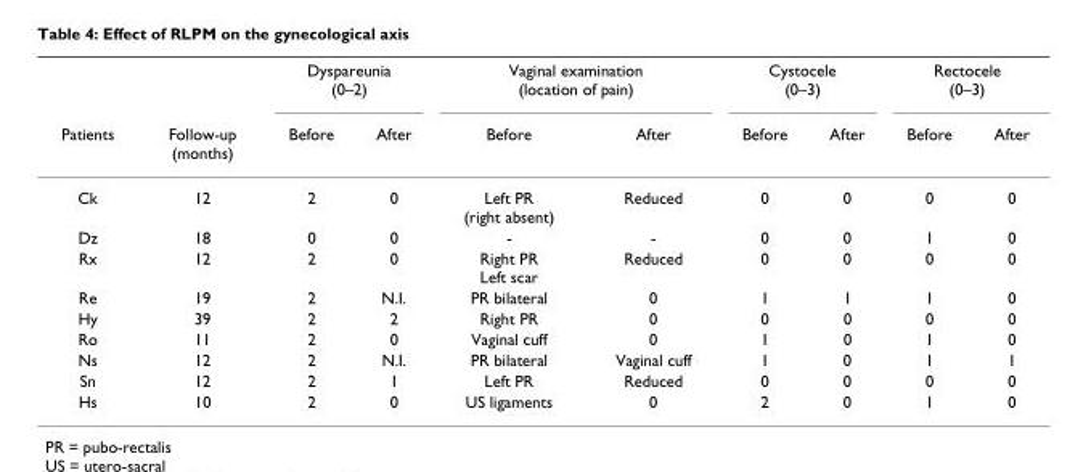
<table><thead><tr><td rowspan="2">Patients</td><td rowspan="2">Follow-up (months)</td><td colspan="2">Dyspareunia (0–2)</td><td colspan="2">Vaginal examination (location of pain)</td><td colspan="2">Cystocele (0–3)</td><td colspan="2">Rectocele (0–3)</td></tr><tr><td>Before</td><td>After</td><td>Before</td><td>After</td><td>Before</td><td>After</td><td>Before</td><td>After</td></tr></thead><tbody><tr><td>Ck</td><td>12</td><td>2</td><td>0</td><td>Left PR (right absent)</td><td>Reduced</td><td>0</td><td>0</td><td>0</td><td>0</td></tr><tr><td>Dz</td><td>18</td><td>0</td><td>0</td><td>-</td><td>-</td><td>0</td><td>0</td><td>1</td><td>0</td></tr><tr><td>Rx</td><td>12</td><td>2</td><td>0</td><td>Right PR Left scar</td><td>Reduced</td><td>0</td><td>0</td><td>0</td><td>0</td></tr><tr><td>Re</td><td>19</td><td>2</td><td>N.I.</td><td>PR bilateral</td><td>0</td><td>1</td><td>1</td><td>1</td><td>0</td></tr><tr><td>Hy</td><td>39</td><td>2</td><td>2</td><td>Right PR</td><td>0</td><td>0</td><td>0</td><td>0</td><td>0</td></tr><tr><td>Ro</td><td>11</td><td>2</td><td>0</td><td>Vaginal cuff</td><td>0</td><td>1</td><td>0</td><td>1</td><td>0</td></tr><tr><td>Ns</td><td>12</td><td>2</td><td>N.I.</td><td>PR bilateral</td><td>Vaginal cuff</td><td>1</td><td>0</td><td>1</td><td>1</td></tr><tr><td>Sn</td><td>12</td><td>2</td><td>1</td><td>Left PR</td><td>Reduced</td><td>0</td><td>0</td><td>0</td><td>0</td></tr><tr><td>Hs</td><td>10</td><td>2</td><td>0</td><td>US ligaments</td><td>0</td><td>2</td><td>0</td><td>1</td><td>0</td></tr></tbody></table>